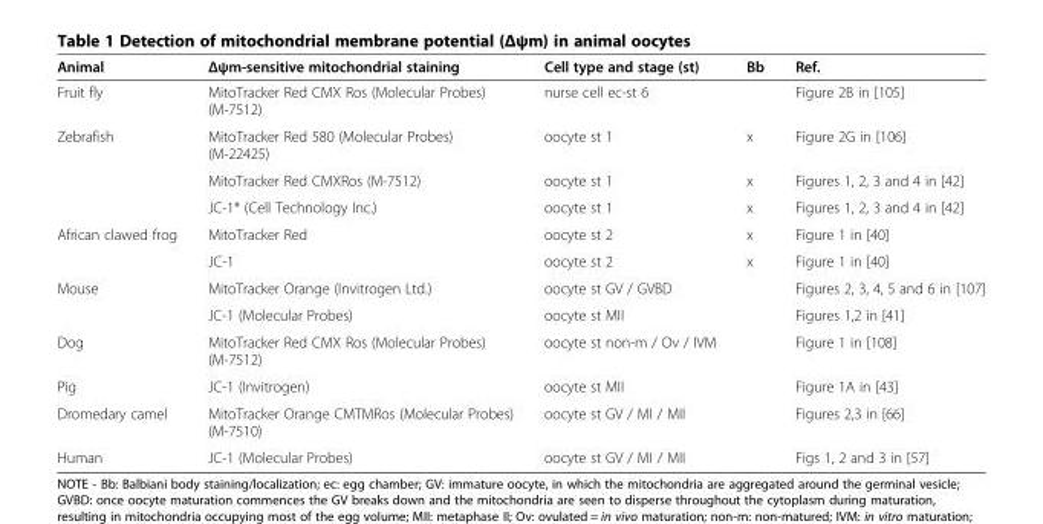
<table><thead><tr><td>Animal</td><td>Δψm-sensitive mitochondrial staining</td><td>Cell type and stage (st)</td><td>Bb</td><td>Ref.</td></tr></thead><tbody><tr><td>Fruit fly</td><td>MitoTracker Red CMX Ros (Molecular Probes) (M-7512)</td><td>nurse cell ec-st 6</td><td></td><td>Figure 2B in [105]</td></tr><tr><td rowspan="3">Zebrafish</td><td>MitoTracker Red 580 (Molecular Probes) (M-22425)</td><td>oocyte st 1</td><td>x</td><td>Figure 2G in [106]</td></tr><tr><td>MitoTracker Red CMXRos (M-7512)</td><td>oocyte st 1</td><td>x</td><td>Figures 1, 2, 3 and 4 in [42]</td></tr><tr><td>JC-1* (Cell Technology Inc.)</td><td>oocyte st 1</td><td>x</td><td>Figures 1, 2, 3 and 4 in [42]</td></tr><tr><td rowspan="2">African clawed frog</td><td>MitoTracker Red</td><td>oocyte st 2</td><td>x</td><td>Figure 1 in [40]</td></tr><tr><td>JC-1</td><td>oocyte st 2</td><td>x</td><td>Figure 1 in [40]</td></tr><tr><td rowspan="2">Mouse</td><td>MitoTracker Orange (Invitrogen Ltd.)</td><td>oocyte st GV / GVBD</td><td></td><td>Figures 2, 3, 4, 5 and 6 in [107]</td></tr><tr><td>JC-1 (Molecular Probes)</td><td>oocyte st MII</td><td></td><td>Figures 1,2 in [41]</td></tr><tr><td>Dog</td><td>MitoTracker Red CMX Ros (Molecular Probes) (M-7512)</td><td>oocyte st non-m / Ov / IVM</td><td></td><td>Figure 1 in [108]</td></tr><tr><td>Pig</td><td>JC-1 (Invitrogen)</td><td>oocyte st MII</td><td></td><td>Figure 1A in [43]</td></tr><tr><td>Dromedary camel</td><td>MitoTracker Orange CMTMRos (Molecular Probes) (M-7510)</td><td>oocyte st GV / MI / MII</td><td></td><td>Figures 2,3 in [66]</td></tr><tr><td>Human</td><td>JC-1 (Molecular Probes)</td><td>oocyte st GV / MI / MII</td><td></td><td>Figs 1, 2 and 3 in [57]</td></tr></tbody></table>